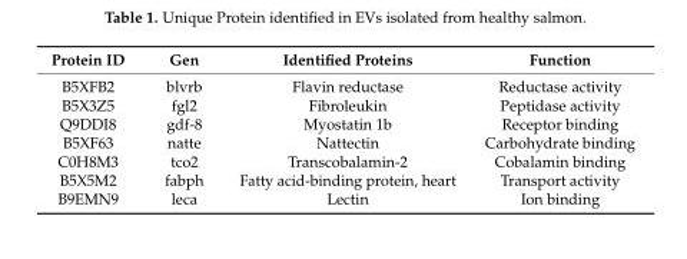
<table><thead><tr><td>Protein ID</td><td>Gen</td><td>Identified Proteins</td><td>Function</td></tr></thead><tbody><tr><td>B5XFB2</td><td>blvrb</td><td>Flavin reductase</td><td>Reductase activity</td></tr><tr><td>B5X3Z5</td><td>fgl2</td><td>Fibroleukin</td><td>Peptidase activity</td></tr><tr><td>Q9DDI8</td><td>gdf-8</td><td>Myostatin 1b</td><td>Receptor binding</td></tr><tr><td>B5XF63</td><td>natte</td><td>Nattectin</td><td>Carbohydrate binding</td></tr><tr><td>C0H8M3</td><td>tco2</td><td>Transcobalamin-2</td><td>Cobalamin binding</td></tr><tr><td>B5X5M2</td><td>fabph</td><td>Fatty acid-binding protein, heart</td><td>Transport activity</td></tr><tr><td>B9EMN9</td><td>leca</td><td>Lectin</td><td>Ion binding</td></tr></tbody></table>